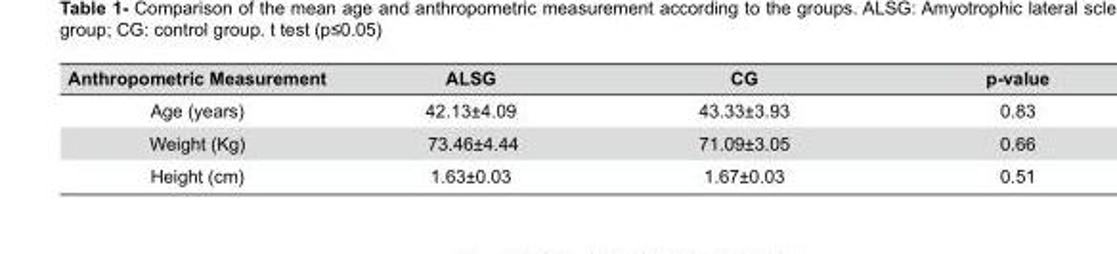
<table><thead><tr><td>Anthropometric Measurement</td><td>ALSG</td><td>CG</td><td>p-value</td></tr></thead><tbody><tr><td>Age (years)</td><td>42.13±4.09</td><td>43.33±3.93</td><td>0.83</td></tr><tr><td>Weight (Kg)</td><td>73.46±4.44</td><td>71.09±3.05</td><td>0.66</td></tr><tr><td>Height (cm)</td><td>1.63±0.03</td><td>1.67±0.03</td><td>0.51</td></tr></tbody></table>